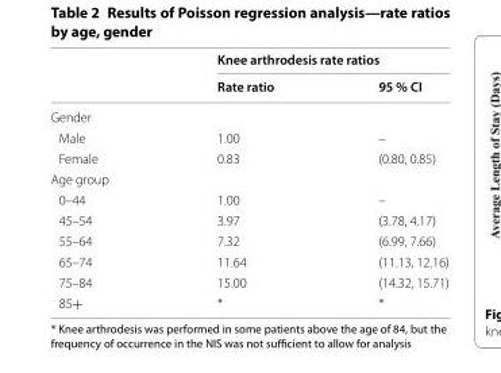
<table><thead><tr><td rowspan="2"></td><td colspan="2">Knee arthrodesis rate ratios</td></tr><tr><td>Rate ratio</td><td>95 % CI</td></tr></thead><tbody><tr><td colspan="3">Gender</td></tr><tr><td>Male</td><td>1.00</td><td>–</td></tr><tr><td>Female</td><td>0.83</td><td>(0.80, 0.85)</td></tr><tr><td colspan="3">Age group</td></tr><tr><td>0–44</td><td>1.00</td><td>–</td></tr><tr><td>45–54</td><td>3.97</td><td>(3.78, 4.17)</td></tr><tr><td>55–64</td><td>7.32</td><td>(6.99, 7.66)</td></tr><tr><td>65–74</td><td>11.64</td><td>(11.13, 12.16)</td></tr><tr><td>75–84</td><td>15.00</td><td>(14.32, 15.71)</td></tr><tr><td>85+</td><td>*</td><td>*</td></tr></tbody></table>